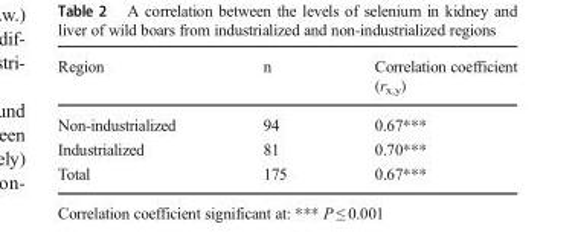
<table><thead><tr><td>Region</td><td>n</td><td>Correlation coefficient (r<sub>x,y</sub>)</td></tr></thead><tbody><tr><td>Non-industrialized</td><td>94</td><td>0.67***</td></tr><tr><td>Industrialized</td><td>81</td><td>0.70***</td></tr><tr><td>Total</td><td>175</td><td>0.67***</td></tr></tbody></table>